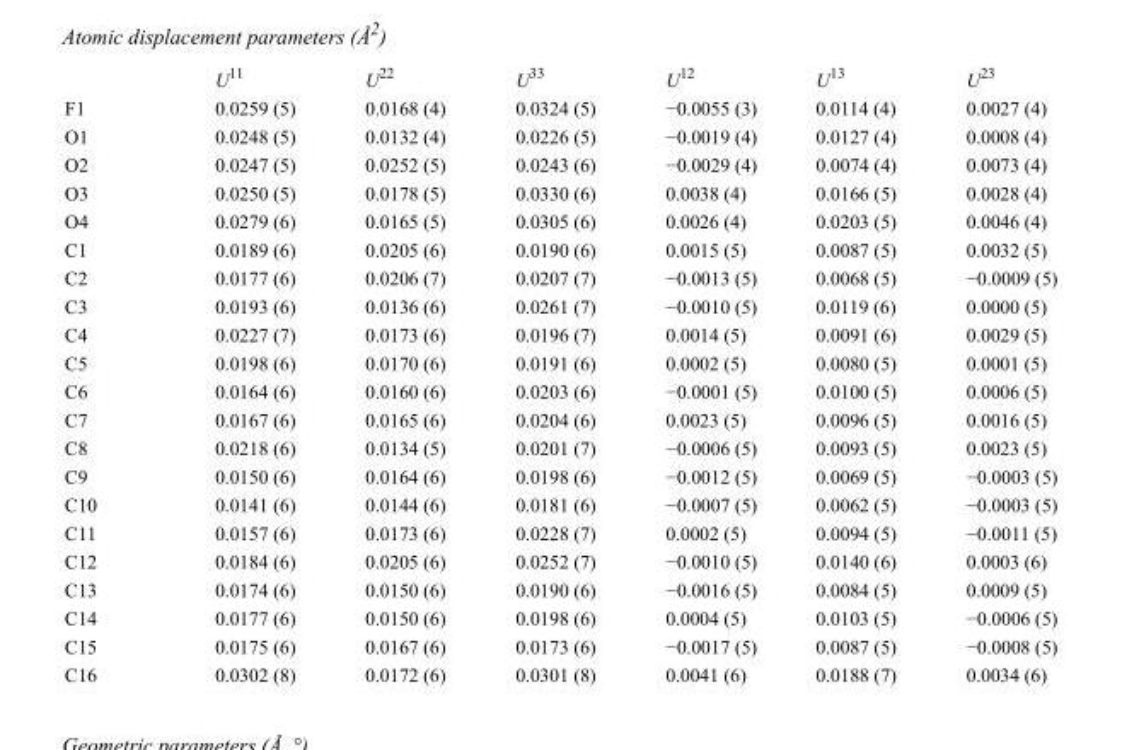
<table><thead><tr><td></td><td>U<sup>11</sup></td><td>U<sup>22</sup></td><td>U<sup>33</sup></td><td>U<sup>12</sup></td><td>U<sup>13</sup></td><td>U<sup>23</sup></td></tr></thead><tbody><tr><td>F1</td><td>0.0259 (5)</td><td>0.0168 (4)</td><td>0.0324 (5)</td><td>−0.0055 (3)</td><td>0.0114 (4)</td><td>0.0027 (4)</td></tr><tr><td>O1</td><td>0.0248 (5)</td><td>0.0132 (4)</td><td>0.0226 (5)</td><td>−0.0019 (4)</td><td>0.0127 (4)</td><td>0.0008 (4)</td></tr><tr><td>O2</td><td>0.0247 (5)</td><td>0.0252 (5)</td><td>0.0243 (6)</td><td>−0.0029 (4)</td><td>0.0074 (4)</td><td>0.0073 (4)</td></tr><tr><td>O3</td><td>0.0250 (5)</td><td>0.0178 (5)</td><td>0.0330 (6)</td><td>0.0038 (4)</td><td>0.0166 (5)</td><td>0.0028 (4)</td></tr><tr><td>O4</td><td>0.0279 (6)</td><td>0.0165 (5)</td><td>0.0305 (6)</td><td>0.0026 (4)</td><td>0.0203 (5)</td><td>0.0046 (4)</td></tr><tr><td>C1</td><td>0.0189 (6)</td><td>0.0205 (6)</td><td>0.0190 (6)</td><td>0.0015 (5)</td><td>0.0087 (5)</td><td>0.0032 (5)</td></tr><tr><td>C2</td><td>0.0177 (6)</td><td>0.0206 (7)</td><td>0.0207 (7)</td><td>−0.0013 (5)</td><td>0.0068 (5)</td><td>−0.0009 (5)</td></tr><tr><td>C3</td><td>0.0193 (6)</td><td>0.0136 (6)</td><td>0.0261 (7)</td><td>−0.0010 (5)</td><td>0.0119 (6)</td><td>0.0000 (5)</td></tr><tr><td>C4</td><td>0.0227 (7)</td><td>0.0173 (6)</td><td>0.0196 (7)</td><td>0.0014 (5)</td><td>0.0091 (6)</td><td>0.0029 (5)</td></tr><tr><td>C5</td><td>0.0198 (6)</td><td>0.0170 (6)</td><td>0.0191 (6)</td><td>0.0002 (5)</td><td>0.0080 (5)</td><td>0.0001 (5)</td></tr><tr><td>C6</td><td>0.0164 (6)</td><td>0.0160 (6)</td><td>0.0203 (6)</td><td>−0.0001 (5)</td><td>0.0100 (5)</td><td>0.0006 (5)</td></tr><tr><td>C7</td><td>0.0167 (6)</td><td>0.0165 (6)</td><td>0.0204 (6)</td><td>0.0023 (5)</td><td>0.0096 (5)</td><td>0.0016 (5)</td></tr><tr><td>C8</td><td>0.0218 (6)</td><td>0.0134 (5)</td><td>0.0201 (7)</td><td>−0.0006 (5)</td><td>0.0093 (5)</td><td>0.0023 (5)</td></tr><tr><td>C9</td><td>0.0150 (6)</td><td>0.0164 (6)</td><td>0.0198 (6)</td><td>−0.0012 (5)</td><td>0.0069 (5)</td><td>−0.0003 (5)</td></tr><tr><td>C10</td><td>0.0141 (6)</td><td>0.0144 (6)</td><td>0.0181 (6)</td><td>−0.0007 (5)</td><td>0.0062 (5)</td><td>−0.0003 (5)</td></tr><tr><td>C11</td><td>0.0157 (6)</td><td>0.0173 (6)</td><td>0.0228 (7)</td><td>0.0002 (5)</td><td>0.0094 (5)</td><td>−0.0011 (5)</td></tr><tr><td>C12</td><td>0.0184 (6)</td><td>0.0205 (6)</td><td>0.0252 (7)</td><td>−0.0010 (5)</td><td>0.0140 (6)</td><td>0.0003 (6)</td></tr><tr><td>C13</td><td>0.0174 (6)</td><td>0.0150 (6)</td><td>0.0190 (6)</td><td>−0.0016 (5)</td><td>0.0084 (5)</td><td>0.0009 (5)</td></tr><tr><td>C14</td><td>0.0177 (6)</td><td>0.0150 (6)</td><td>0.0198 (6)</td><td>0.0004 (5)</td><td>0.0103 (5)</td><td>−0.0006 (5)</td></tr><tr><td>C15</td><td>0.0175 (6)</td><td>0.0167 (6)</td><td>0.0173 (6)</td><td>−0.0017 (5)</td><td>0.0087 (5)</td><td>−0.0008 (5)</td></tr><tr><td>C16</td><td>0.0302 (8)</td><td>0.0172 (6)</td><td>0.0301 (8)</td><td>0.0041 (6)</td><td>0.0188 (7)</td><td>0.0034 (6)</td></tr></tbody></table>